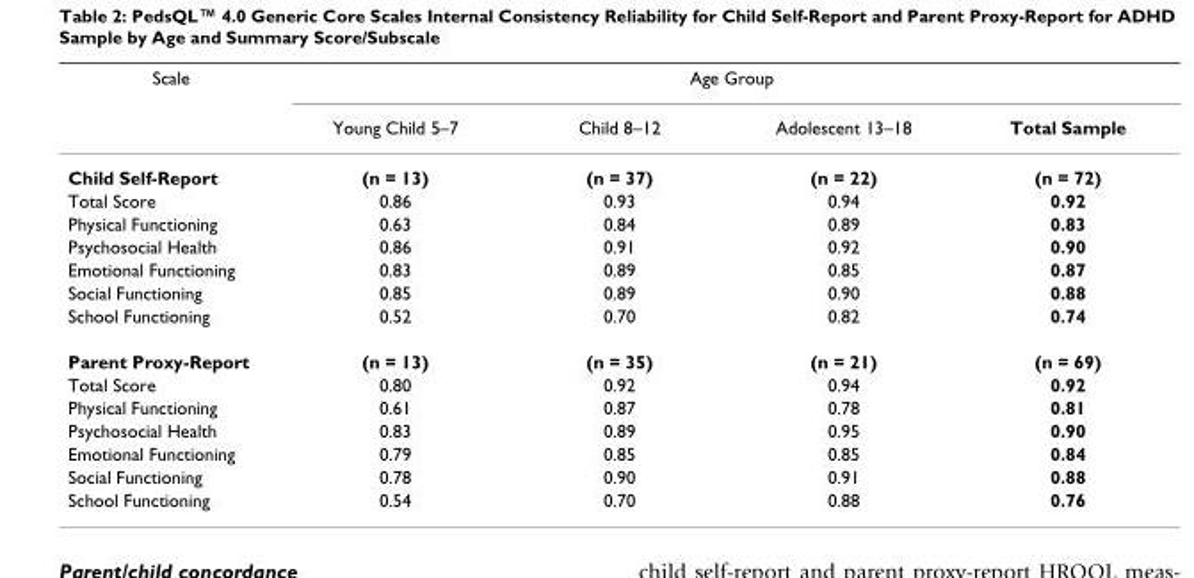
<table><thead><tr><td rowspan="2">Scale</td><td colspan="4">Age Group</td></tr><tr><td>Young Child 5–7</td><td>Child 8–12</td><td>Adolescent 13–18</td><td>Total Sample</td></tr></thead><tbody><tr><td>Child Self-Report</td><td>(n = 13)</td><td>(n = 37)</td><td>(n = 22)</td><td>(n = 72)</td></tr><tr><td>Total Score</td><td>0.86</td><td>0.93</td><td>0.94</td><td>0.92</td></tr><tr><td>Physical Functioning</td><td>0.63</td><td>0.84</td><td>0.89</td><td>0.83</td></tr><tr><td>Psychosocial Health</td><td>0.86</td><td>0.91</td><td>0.92</td><td>0.90</td></tr><tr><td>Emotional Functioning</td><td>0.83</td><td>0.89</td><td>0.85</td><td>0.87</td></tr><tr><td>Social Functioning</td><td>0.85</td><td>0.89</td><td>0.90</td><td>0.88</td></tr><tr><td>School Functioning</td><td>0.52</td><td>0.70</td><td>0.82</td><td>0.74</td></tr><tr><td>Parent Proxy-Report</td><td>(n = 13)</td><td>(n = 35)</td><td>(n = 21)</td><td>(n = 69)</td></tr><tr><td>Total Score</td><td>0.80</td><td>0.92</td><td>0.94</td><td>0.92</td></tr><tr><td>Physical Functioning</td><td>0.61</td><td>0.87</td><td>0.78</td><td>0.81</td></tr><tr><td>Psychosocial Health</td><td>0.83</td><td>0.89</td><td>0.95</td><td>0.90</td></tr><tr><td>Emotional Functioning</td><td>0.79</td><td>0.85</td><td>0.85</td><td>0.84</td></tr><tr><td>Social Functioning</td><td>0.78</td><td>0.90</td><td>0.91</td><td>0.88</td></tr><tr><td>School Functioning</td><td>0.54</td><td>0.70</td><td>0.88</td><td>0.76</td></tr></tbody></table>